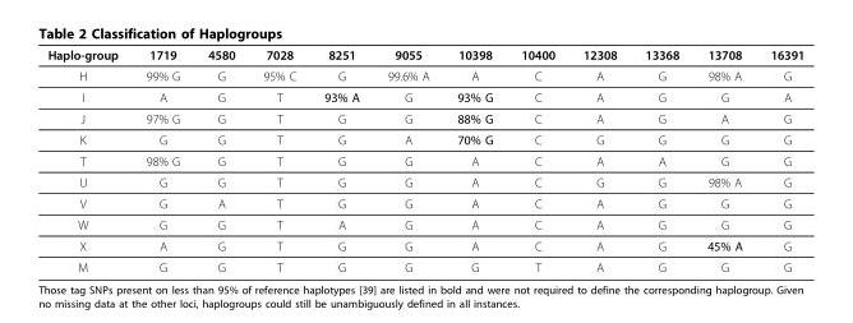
<table><thead><tr><td>Haplo-group</td><td>1719</td><td>4580</td><td>7028</td><td>8251</td><td>9055</td><td>10398</td><td>10400</td><td>12308</td><td>13368</td><td>13708</td><td>16391</td></tr></thead><tbody><tr><td>H</td><td>99% G</td><td>G</td><td>95% C</td><td>G</td><td>99.6% A</td><td>A</td><td>C</td><td>A</td><td>G</td><td>98% A</td><td>G</td></tr><tr><td>I</td><td>A</td><td>G</td><td>T</td><td>93% A</td><td>G</td><td>93% G</td><td>C</td><td>A</td><td>G</td><td>G</td><td>A</td></tr><tr><td>J</td><td>97% G</td><td>G</td><td>T</td><td>G</td><td>G</td><td>88% G</td><td>C</td><td>A</td><td>G</td><td>A</td><td>G</td></tr><tr><td>K</td><td>G</td><td>G</td><td>T</td><td>G</td><td>A</td><td>70% G</td><td>C</td><td>G</td><td>G</td><td>G</td><td>G</td></tr><tr><td>T</td><td>98% G</td><td>G</td><td>T</td><td>G</td><td>G</td><td>A</td><td>C</td><td>A</td><td>A</td><td>G</td><td>G</td></tr><tr><td>U</td><td>G</td><td>G</td><td>T</td><td>G</td><td>G</td><td>A</td><td>C</td><td>G</td><td>G</td><td>98% A</td><td>G</td></tr><tr><td>V</td><td>G</td><td>A</td><td>T</td><td>G</td><td>G</td><td>A</td><td>C</td><td>A</td><td>G</td><td>G</td><td>G</td></tr><tr><td>W</td><td>G</td><td>G</td><td>T</td><td>A</td><td>G</td><td>A</td><td>C</td><td>A</td><td>G</td><td>G</td><td>G</td></tr><tr><td>X</td><td>A</td><td>G</td><td>T</td><td>G</td><td>G</td><td>A</td><td>C</td><td>A</td><td>G</td><td>45% A</td><td>G</td></tr><tr><td>M</td><td>G</td><td>G</td><td>T</td><td>G</td><td>G</td><td>G</td><td>T</td><td>A</td><td>G</td><td>G</td><td>G</td></tr></tbody></table>